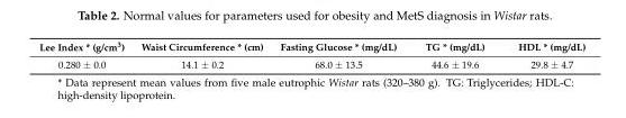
<table><thead><tr><td>Lee Index * (g/cm<sup>3</sup>)</td><td>Waist Circumference * (cm)</td><td>Fasting Glucose * (mg/dL)</td><td>TG * (mg/dL)</td><td>HDL * (mg/dL)</td></tr></thead><tbody><tr><td>0.280 ± 0.0</td><td>14.1 ± 0.2</td><td>68.0 ± 13.5</td><td>44.6 ± 19.6</td><td>29.8 ± 4.7</td></tr></tbody></table>